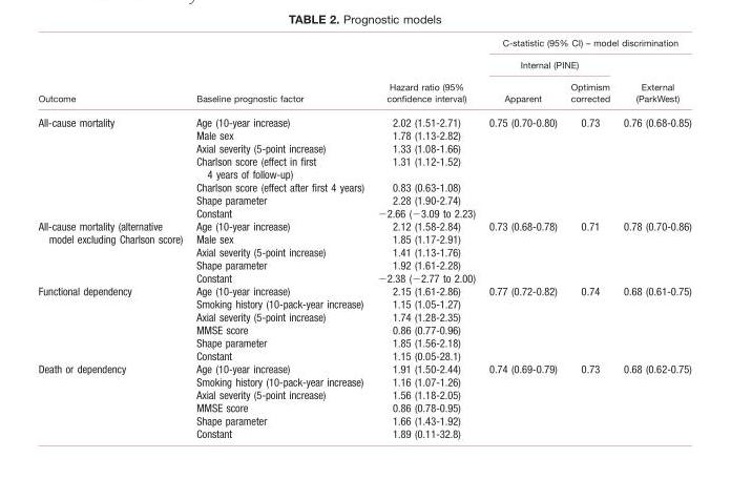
<table><thead><tr><td rowspan="3">Outcome</td><td rowspan="3">Baseline prognostic factor</td><td rowspan="3">Hazard ratio (95% confidence interval)</td><td colspan="3">C-statistic (95% CI) – model discrimination</td></tr><tr><td colspan="2">Internal (PINE)</td><td rowspan="2">External (ParkWest)</td></tr><tr><td>Apparent</td><td>Optimism corrected</td></tr></thead><tbody><tr><td rowspan="7">All-cause mortality</td><td>Age (10-year increase)</td><td>2.02 (1.51-2.71)</td><td rowspan="7">0.75 (0.70-0.80)</td><td rowspan="7">0.73</td><td rowspan="7">0.76 (0.68-0.85)</td></tr><tr><td>Male sex</td><td>1.78 (1.13-2.82)</td></tr><tr><td>Axial severity (5-point increase)</td><td>1.33 (1.08-1.66)</td></tr><tr><td>Charlson score (effect in first 4 years of follow-up)</td><td>1.31 (1.12-1.52)</td></tr><tr><td>Charlson score (effect after first 4 years)</td><td>0.83 (0.63-1.08)</td></tr><tr><td>Shape parameter</td><td>2.28 (1.90-2.74)</td></tr><tr><td>Constant</td><td>−2.66 (−3.09 to 2.23)</td></tr><tr><td rowspan="5">All-cause mortality (alternative model excluding Charlson score)</td><td>Age (10-year increase)</td><td>2.12 (1.58-2.84)</td><td rowspan="5">0.73 (0.68-0.78)</td><td rowspan="5">0.71</td><td rowspan="5">0.78 (0.70-0.86)</td></tr><tr><td>Male sex</td><td>1.85 (1.17-2.91)</td></tr><tr><td>Axial severity (5-point increase)</td><td>1.41 (1.13-1.76)</td></tr><tr><td>Shape parameter</td><td>1.92 (1.61-2.28)</td></tr><tr><td>Constant</td><td>−2.38 (−2.77 to 2.00)</td></tr><tr><td rowspan="6">Functional dependency</td><td>Age (10-year increase)</td><td>2.15 (1.61-2.86)</td><td rowspan="6">0.77 (0.72-0.82)</td><td rowspan="6">0.74</td><td rowspan="6">0.68 (0.61-0.75)</td></tr><tr><td>Smoking history (10-pack-year increase)</td><td>1.15 (1.05-1.27)</td></tr><tr><td>Axial severity (5-point increase)</td><td>1.74 (1.28-2.35)</td></tr><tr><td>MMSE score</td><td>0.86 (0.77-0.96)</td></tr><tr><td>Shape parameter</td><td>1.85 (1.56-2.18)</td></tr><tr><td>Constant</td><td>1.15 (0.05-28.1)</td></tr><tr><td rowspan="6">Death or dependency</td><td>Age (10-year increase)</td><td>1.91 (1.50-2.44)</td><td rowspan="6">0.74 (0.69-0.79)</td><td rowspan="6">0.73</td><td rowspan="6">0.68 (0.62-0.75)</td></tr><tr><td>Smoking history (10-pack-year increase)</td><td>1.16 (1.07-1.26)</td></tr><tr><td>Axial severity (5-point increase)</td><td>1.56 (1.18-2.05)</td></tr><tr><td>MMSE score</td><td>0.86 (0.78-0.95)</td></tr><tr><td>Shape parameter</td><td>1.66 (1.43-1.92)</td></tr><tr><td>Constant</td><td>1.89 (0.11-32.8)</td></tr></tbody></table>